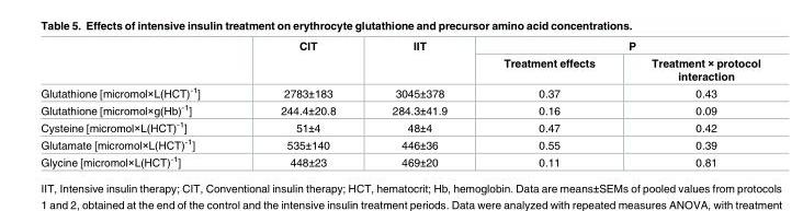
<table><thead><tr><td rowspan="2"></td><td rowspan="2">CIT</td><td rowspan="2">IIT</td><td colspan="2">P</td></tr><tr><td>Treatment effects</td><td>Treatment × protocol interaction</td></tr></thead><tbody><tr><td>Glutathione [micromol×L(HCT)<sup>-1</sup>]</td><td>2783±183</td><td>3045±378</td><td>0.37</td><td>0.43</td></tr><tr><td>Glutathione [micromol×g(Hb)<sup>-1</sup>]</td><td>244.4±20.8</td><td>284.3±41.9</td><td>0.16</td><td>0.09</td></tr><tr><td>Cysteine [micromol×L(HCT)<sup>-1</sup>]</td><td>51±4</td><td>48±4</td><td>0.47</td><td>0.42</td></tr><tr><td>Glutamate [micromol×L(HCT)<sup>-1</sup>]</td><td>535±140</td><td>446±36</td><td>0.55</td><td>0.39</td></tr><tr><td>Glycine [micromol×L(HCT)<sup>-1</sup>]</td><td>448±23</td><td>469±20</td><td>0.11</td><td>0.81</td></tr></tbody></table>